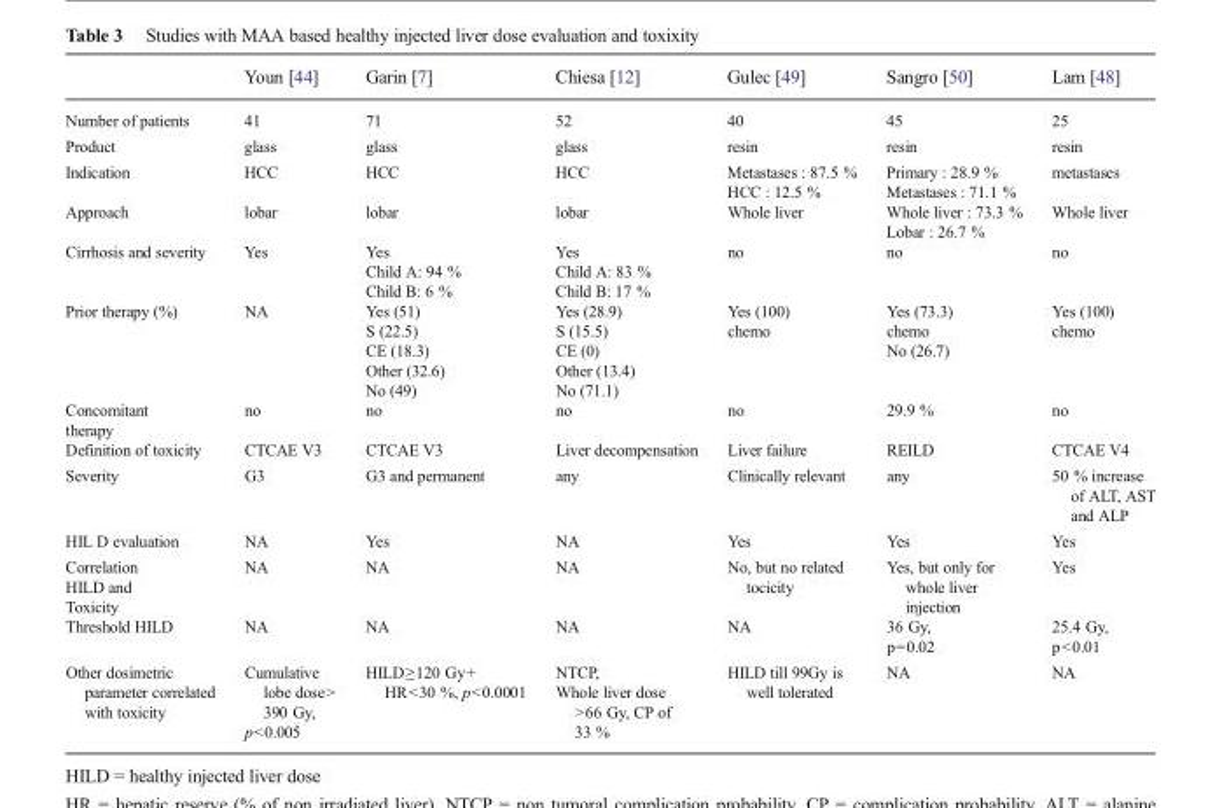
<table><thead><tr><td></td><td>Youn [44]</td><td>Garin [7]</td><td>Chiesa [12]</td><td>Gulec [49]</td><td>Sangro [50]</td><td>Lam [48]</td></tr></thead><tbody><tr><td>Number of patients</td><td>41</td><td>71</td><td>52</td><td>40</td><td>45</td><td>25</td></tr><tr><td>Product</td><td>glass</td><td>glass</td><td>glass</td><td>resin</td><td>resin</td><td>resin</td></tr><tr><td>Indication</td><td>HCC</td><td>HCC</td><td>HCC</td><td>Metastases : 87.5 % HCC : 12.5 %</td><td>Primary : 28.9 % Metastases : 71.1 %</td><td>metastases</td></tr><tr><td>Approach</td><td>lobar</td><td>lobar</td><td>lobar</td><td>Whole liver</td><td>Whole liver : 73.3 % Lobar : 26.7 %</td><td>Whole liver</td></tr><tr><td>Cirrhosis and severity</td><td>Yes</td><td>Yes Child A: 94 % Child B: 6 %</td><td>Yes Child A: 83 % Child B: 17 %</td><td>no</td><td>no</td><td>no</td></tr><tr><td>Prior therapy (%)</td><td>NA</td><td>Yes (51) S (22.5) CE (18.3) Other (32.6) No (49)</td><td>Yes (28.9) S (15.5) CE (0) Other (13.4) No (71.1)</td><td>Yes (100) chemo</td><td>Yes (73.3) chemo No (26.7)</td><td>Yes (100) chemo</td></tr><tr><td>Concomitant therapy</td><td>no</td><td>no</td><td>no</td><td>no</td><td>29.9 %</td><td>no</td></tr><tr><td>Definition of toxicity</td><td>CTCAE V3</td><td>CTCAE V3</td><td>Liver decompensation</td><td>Liver failure</td><td>REILD</td><td>CTCAE V4</td></tr><tr><td>Severity</td><td>G3</td><td>G3 and permanent</td><td>any</td><td>Clinically relevant</td><td>any</td><td>50 % increase of ALT, AST and ALP</td></tr><tr><td>HIL D evaluation</td><td>NA</td><td>Yes</td><td>NA</td><td>Yes</td><td>Yes</td><td>Yes</td></tr><tr><td>Correlation HILD and Toxicity</td><td>NA</td><td>NA</td><td>NA</td><td>No, but no related tocicity</td><td>Yes, but only for whole liver injection</td><td>Yes</td></tr><tr><td>Threshold HILD</td><td>NA</td><td>NA</td><td>NA</td><td>NA</td><td>36 Gy, p=0.02</td><td>25.4 Gy, p&lt;0.01</td></tr><tr><td>Other dosimetric parameter correlated with toxicity</td><td>Cumulative lobe dose&gt; 390 Gy, p&lt;0.005</td><td>HILD≥120 Gy+ HR&lt;30 %, p&lt;0.0001</td><td>NTCP, Whole liver dose &gt;66 Gy, CP of 33 %</td><td>HILD till 99Gy is well tolerated</td><td>NA</td><td>NA</td></tr></tbody></table>